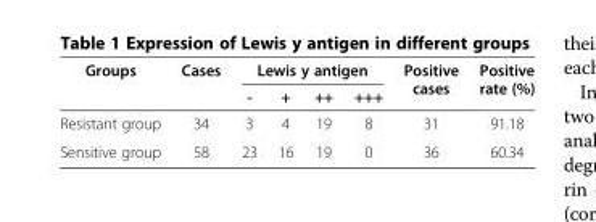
<table><thead><tr><td rowspan="2">Groups</td><td rowspan="2">Cases</td><td colspan="4">Lewis y antigen</td><td rowspan="2">Positive cases</td><td rowspan="2">Positive rate (%)</td></tr><tr><td>-</td><td>+</td><td>++</td><td>+++</td></tr></thead><tbody><tr><td>Resistant group</td><td>34</td><td>3</td><td>4</td><td>19</td><td>8</td><td>31</td><td>91.18</td></tr><tr><td>Sensitive group</td><td>58</td><td>23</td><td>16</td><td>19</td><td>0</td><td>36</td><td>60.34</td></tr></tbody></table>